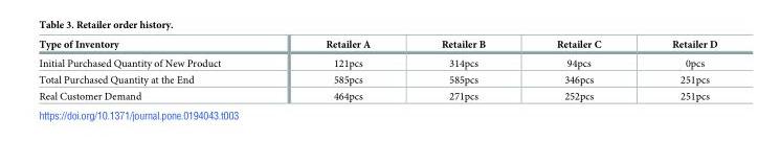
<table><thead><tr><td>Type of Inventory</td><td>Retailer A</td><td>Retailer B</td><td>Retailer C</td><td>Retailer D</td></tr></thead><tbody><tr><td>Initial Purchased Quantity of New Product</td><td>121pcs</td><td>314pcs</td><td>94pcs</td><td>0pcs</td></tr><tr><td>Total Purchased Quantity at the End</td><td>585pcs</td><td>585pcs</td><td>346pcs</td><td>251pcs</td></tr><tr><td>Real Customer Demand</td><td>464pcs</td><td>271pcs</td><td>252pcs</td><td>251pcs</td></tr></tbody></table>